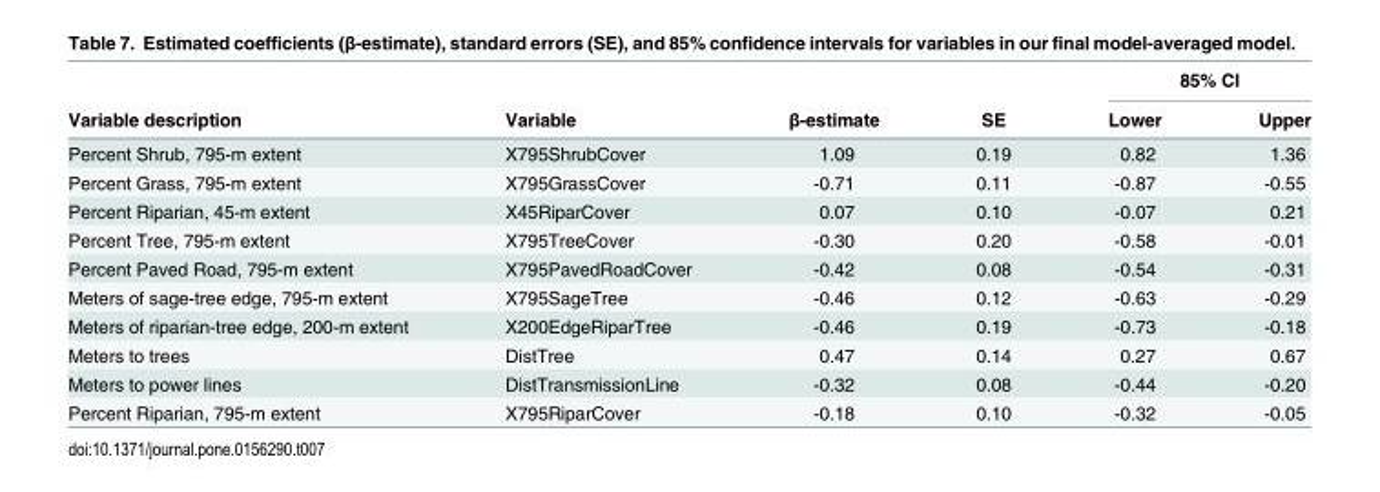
<table><thead><tr><td rowspan="2">Variable description</td><td rowspan="2">Variable</td><td rowspan="2">β-estimate</td><td rowspan="2">SE</td><td colspan="2">85% CI</td></tr><tr><td>Lower</td><td>Upper</td></tr></thead><tbody><tr><td>Percent Shrub, 795-m extent</td><td>X795ShrubCover</td><td>1.09</td><td>0.19</td><td>0.82</td><td>1.36</td></tr><tr><td>Percent Grass, 795-m extent</td><td>X795GrassCover</td><td>-0.71</td><td>0.11</td><td>-0.87</td><td>-0.55</td></tr><tr><td>Percent Riparian, 45-m extent</td><td>X45RiparCover</td><td>0.07</td><td>0.10</td><td>-0.07</td><td>0.21</td></tr><tr><td>Percent Tree, 795-m extent</td><td>X795TreeCover</td><td>-0.30</td><td>0.20</td><td>-0.58</td><td>-0.01</td></tr><tr><td>Percent Paved Road, 795-m extent</td><td>X795PavedRoadCover</td><td>-0.42</td><td>0.08</td><td>-0.54</td><td>-0.31</td></tr><tr><td>Meters of sage-tree edge, 795-m extent</td><td>X795SageTree</td><td>-0.46</td><td>0.12</td><td>-0.63</td><td>-0.29</td></tr><tr><td>Meters of riparian-tree edge, 200-m extent</td><td>X200EdgeRiparTree</td><td>-0.46</td><td>0.19</td><td>-0.73</td><td>-0.18</td></tr><tr><td>Meters to trees</td><td>DistTree</td><td>0.47</td><td>0.14</td><td>0.27</td><td>0.67</td></tr><tr><td>Meters to power lines</td><td>DistTransmissionLine</td><td>-0.32</td><td>0.08</td><td>-0.44</td><td>-0.20</td></tr><tr><td>Percent Riparian, 795-m extent</td><td>X795RiparCover</td><td>-0.18</td><td>0.10</td><td>-0.32</td><td>-0.05</td></tr></tbody></table>